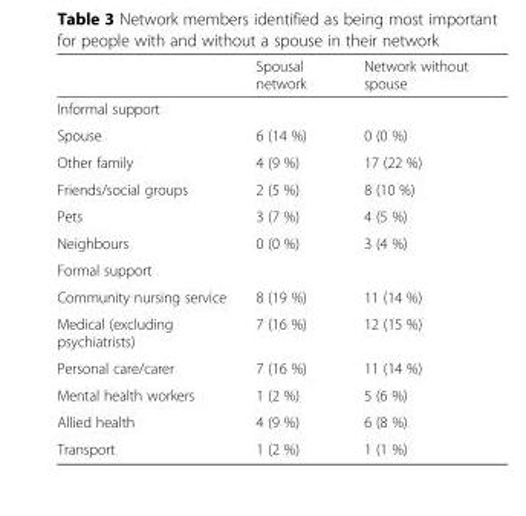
<table><thead><tr><td></td><td>Spousal network</td><td>Network without spouse</td></tr></thead><tbody><tr><td colspan="3">Informal support</td></tr><tr><td>Spouse</td><td>6 (14 %)</td><td>0 (0 %)</td></tr><tr><td>Other family</td><td>4 (9 %)</td><td>17 (22 %)</td></tr><tr><td>Friends/social groups</td><td>2 (5 %)</td><td>8 (10 %)</td></tr><tr><td>Pets</td><td>3 (7 %)</td><td>4 (5 %)</td></tr><tr><td>Neighbours</td><td>0 (0 %)</td><td>3 (4 %)</td></tr><tr><td colspan="3">Formal support</td></tr><tr><td>Community nursing service</td><td>8 (19 %)</td><td>11 (14 %)</td></tr><tr><td>Medical (excluding psychiatrists)</td><td>7 (16 %)</td><td>12 (15 %)</td></tr><tr><td>Personal care/carer</td><td>7 (16 %)</td><td>11 (14 %)</td></tr><tr><td>Mental health workers</td><td>1 (2 %)</td><td>5 (6 %)</td></tr><tr><td>Allied health</td><td>4 (9 %)</td><td>6 (8 %)</td></tr><tr><td>Transport</td><td>1 (2 %)</td><td>1 (1 %)</td></tr></tbody></table>